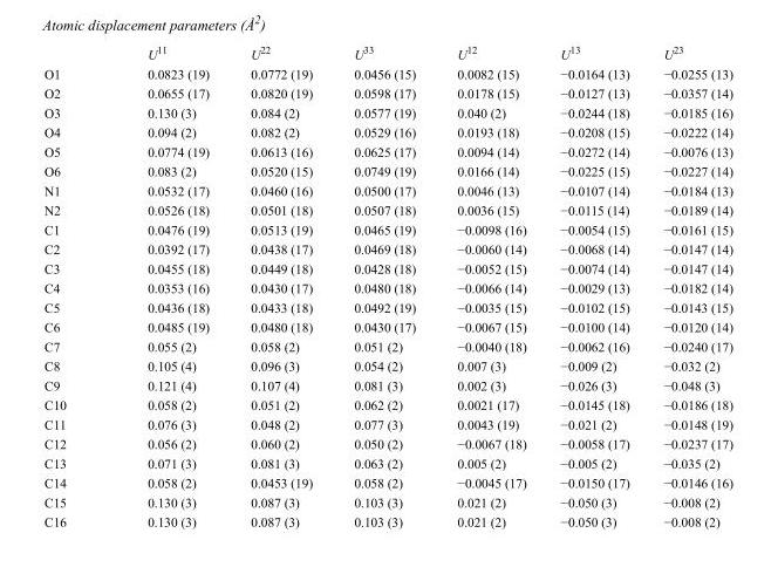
<table><thead><tr><td></td><td>U<sup>11</sup></td><td>U<sup>22</sup></td><td>U<sup>33</sup></td><td>U<sup>12</sup></td><td>U<sup>13</sup></td><td>U<sup>23</sup></td></tr></thead><tbody><tr><td>O1</td><td>0.0823 (19)</td><td>0.0772 (19)</td><td>0.0456 (15)</td><td>0.0082 (15)</td><td>−0.0164 (13)</td><td>−0.0255 (13)</td></tr><tr><td>O2</td><td>0.0655 (17)</td><td>0.0820 (19)</td><td>0.0598 (17)</td><td>0.0178 (15)</td><td>−0.0127 (13)</td><td>−0.0357 (14)</td></tr><tr><td>O3</td><td>0.130 (3)</td><td>0.084 (2)</td><td>0.0577 (19)</td><td>0.040 (2)</td><td>−0.0244 (18)</td><td>−0.0185 (16)</td></tr><tr><td>O4</td><td>0.094 (2)</td><td>0.082 (2)</td><td>0.0529 (16)</td><td>0.0193 (18)</td><td>−0.0208 (15)</td><td>−0.0222 (14)</td></tr><tr><td>O5</td><td>0.0774 (19)</td><td>0.0613 (16)</td><td>0.0625 (17)</td><td>0.0094 (14)</td><td>−0.0272 (14)</td><td>−0.0076 (13)</td></tr><tr><td>O6</td><td>0.083 (2)</td><td>0.0520 (15)</td><td>0.0749 (19)</td><td>0.0166 (14)</td><td>−0.0225 (15)</td><td>−0.0227 (14)</td></tr><tr><td>N1</td><td>0.0532 (17)</td><td>0.0460 (16)</td><td>0.0500 (17)</td><td>0.0046 (13)</td><td>−0.0107 (14)</td><td>−0.0184 (13)</td></tr><tr><td>N2</td><td>0.0526 (18)</td><td>0.0501 (18)</td><td>0.0507 (18)</td><td>0.0036 (15)</td><td>−0.0115 (14)</td><td>−0.0189 (14)</td></tr><tr><td>C1</td><td>0.0476 (19)</td><td>0.0513 (19)</td><td>0.0465 (19)</td><td>−0.0098 (16)</td><td>−0.0054 (15)</td><td>−0.0161 (15)</td></tr><tr><td>C2</td><td>0.0392 (17)</td><td>0.0438 (17)</td><td>0.0469 (18)</td><td>−0.0060 (14)</td><td>−0.0068 (14)</td><td>−0.0147 (14)</td></tr><tr><td>C3</td><td>0.0455 (18)</td><td>0.0449 (18)</td><td>0.0428 (18)</td><td>−0.0052 (15)</td><td>−0.0074 (14)</td><td>−0.0147 (14)</td></tr><tr><td>C4</td><td>0.0353 (16)</td><td>0.0430 (17)</td><td>0.0480 (18)</td><td>−0.0066 (14)</td><td>−0.0029 (13)</td><td>−0.0182 (14)</td></tr><tr><td>C5</td><td>0.0436 (18)</td><td>0.0433 (18)</td><td>0.0492 (19)</td><td>−0.0035 (15)</td><td>−0.0102 (15)</td><td>−0.0143 (15)</td></tr><tr><td>C6</td><td>0.0485 (19)</td><td>0.0480 (18)</td><td>0.0430 (17)</td><td>−0.0067 (15)</td><td>−0.0100 (14)</td><td>−0.0120 (14)</td></tr><tr><td>C7</td><td>0.055 (2)</td><td>0.058 (2)</td><td>0.051 (2)</td><td>−0.0040 (18)</td><td>−0.0062 (16)</td><td>−0.0240 (17)</td></tr><tr><td>C8</td><td>0.105 (4)</td><td>0.096 (3)</td><td>0.054 (2)</td><td>0.007 (3)</td><td>−0.009 (2)</td><td>−0.032 (2)</td></tr><tr><td>C9</td><td>0.121 (4)</td><td>0.107 (4)</td><td>0.081 (3)</td><td>0.002 (3)</td><td>−0.026 (3)</td><td>−0.048 (3)</td></tr><tr><td>C10</td><td>0.058 (2)</td><td>0.051 (2)</td><td>0.062 (2)</td><td>0.0021 (17)</td><td>−0.0145 (18)</td><td>−0.0186 (18)</td></tr><tr><td>C11</td><td>0.076 (3)</td><td>0.048 (2)</td><td>0.077 (3)</td><td>0.0043 (19)</td><td>−0.021 (2)</td><td>−0.0148 (19)</td></tr><tr><td>C12</td><td>0.056 (2)</td><td>0.060 (2)</td><td>0.050 (2)</td><td>−0.0067 (18)</td><td>−0.0058 (17)</td><td>−0.0237 (17)</td></tr><tr><td>C13</td><td>0.071 (3)</td><td>0.081 (3)</td><td>0.063 (2)</td><td>0.005 (2)</td><td>−0.005 (2)</td><td>−0.035 (2)</td></tr><tr><td>C14</td><td>0.058 (2)</td><td>0.0453 (19)</td><td>0.058 (2)</td><td>−0.0045 (17)</td><td>−0.0150 (17)</td><td>−0.0146 (16)</td></tr><tr><td>C15</td><td>0.130 (3)</td><td>0.087 (3)</td><td>0.103 (3)</td><td>0.021 (2)</td><td>−0.050 (3)</td><td>−0.008 (2)</td></tr><tr><td>C16</td><td>0.130 (3)</td><td>0.087 (3)</td><td>0.103 (3)</td><td>0.021 (2)</td><td>−0.050 (3)</td><td>−0.008 (2)</td></tr></tbody></table>